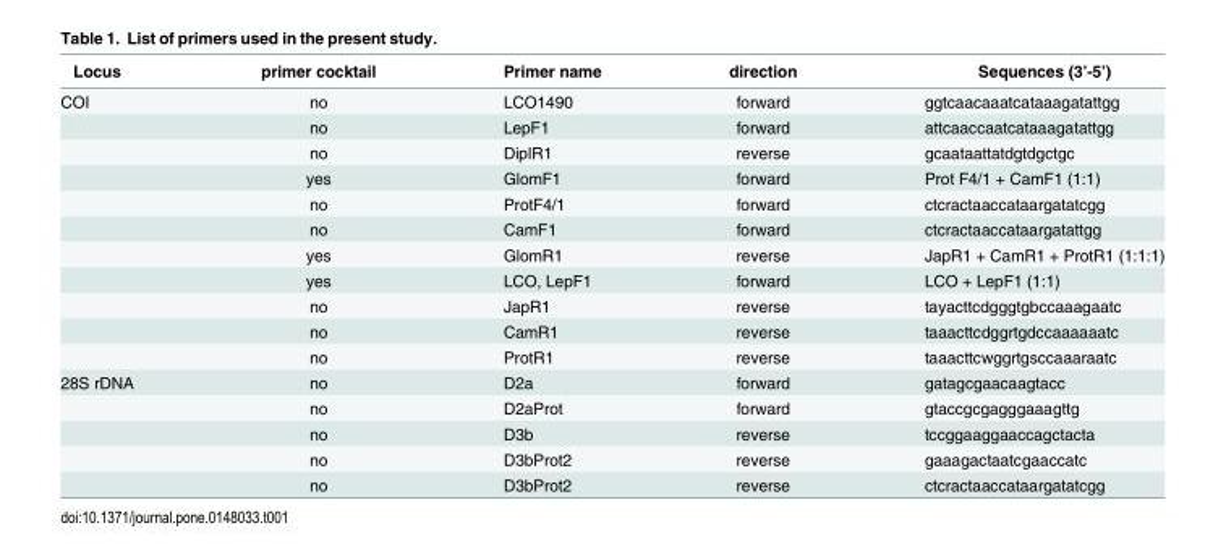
<table><thead><tr><td>Locus</td><td>primer cocktail</td><td>Primer name</td><td>direction</td><td>Sequences (3’-5’)</td></tr></thead><tbody><tr><td rowspan="11">COI</td><td>no</td><td>LCO1490</td><td>forward</td><td>ggtcaacaaatcataaagatattgg</td></tr><tr><td>no</td><td>LepF1</td><td>forward</td><td>attcaaccaatcataaagatattgg</td></tr><tr><td>no</td><td>DiplR1</td><td>reverse</td><td>gcaataattatdgtdgctgc</td></tr><tr><td>yes</td><td>GlomF1</td><td>forward</td><td>Prot F4/1 + CamF1 (1:1)</td></tr><tr><td>no</td><td>ProtF4/1</td><td>forward</td><td>ctcractaaccataargatatcgg</td></tr><tr><td>no</td><td>CamF1</td><td>forward</td><td>ctcractaaccataargatattgg</td></tr><tr><td>yes</td><td>GlomR1</td><td>reverse</td><td>JapR1 + CamR1 + ProtR1 (1:1:1)</td></tr><tr><td>yes</td><td>LCO, LepF1</td><td>forward</td><td>LCO + LepF1 (1:1)</td></tr><tr><td>no</td><td>JapR1</td><td>reverse</td><td>tayacttcdgggtgbccaaagaatc</td></tr><tr><td>no</td><td>CamR1</td><td>reverse</td><td>taaacttcdggrtgdccaaaaaatc</td></tr><tr><td>no</td><td>ProtR1</td><td>reverse</td><td>taaacttcwggrtgsccaaaraatc</td></tr><tr><td rowspan="5">28S rDNA</td><td>no</td><td>D2a</td><td>forward</td><td>gatagcgaacaagtacc</td></tr><tr><td>no</td><td>D2aProt</td><td>forward</td><td>gtaccgcgagggaaagttg</td></tr><tr><td>no</td><td>D3b</td><td>reverse</td><td>tccggaaggaaccagctacta</td></tr><tr><td>no</td><td>D3bProt2</td><td>reverse</td><td>gaaagactaatcgaaccatc</td></tr><tr><td>no</td><td>D3bProt2</td><td>reverse</td><td>ctcractaaccataargatatcgg</td></tr></tbody></table>